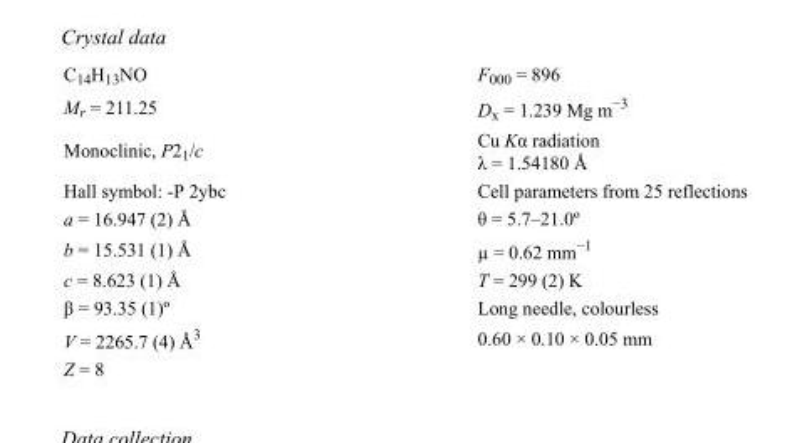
<table><tbody><tr><td>C<sub>14</sub>H<sub>13</sub>NO</td><td>F<sub>000</sub> = 896</td></tr><tr><td>M<sub>r</sub> = 211.25</td><td>D<sub>x</sub> = 1.239 Mg m<sup>−3</sup></td></tr><tr><td>Monoclinic, P2<sub>1</sub>/c</td><td>Cu Kα radiation λ = 1.54180 Å</td></tr><tr><td>Hall symbol: -P 2ybc</td><td>Cell parameters from 25 reflections</td></tr><tr><td>a = 16.947 (2) Å</td><td>θ = 5.7–21.0º</td></tr><tr><td>b = 15.531 (1) Å</td><td>µ = 0.62 mm<sup>−1</sup></td></tr><tr><td>c = 8.623 (1) Å</td><td>T = 299 (2) K</td></tr><tr><td>β = 93.35 (1)º</td><td>Long needle, colourless</td></tr><tr><td>V = 2265.7 (4) Å<sup>3</sup></td><td>0.60 × 0.10 × 0.05 mm</td></tr><tr><td>Z = 8</td><td></td></tr></tbody></table>